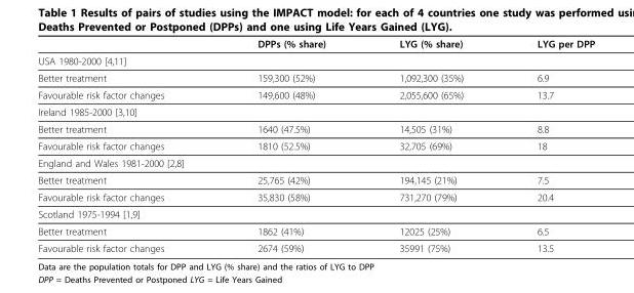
<table><thead><tr><td></td><td>DPPs (% share)</td><td>LYG (% share)</td><td>LYG per DPP</td></tr></thead><tbody><tr><td colspan="4">USA 1980-2000 [4,11]</td></tr><tr><td>Better treatment</td><td>159,300 (52%)</td><td>1,092,300 (35%)</td><td>6.9</td></tr><tr><td>Favourable risk factor changes</td><td>149,600 (48%)</td><td>2,055,600 (65%)</td><td>13.7</td></tr><tr><td colspan="4">Ireland 1985-2000 [3,10]</td></tr><tr><td>Better treatment</td><td>1640 (47.5%)</td><td>14,505 (31%)</td><td>8.8</td></tr><tr><td>Favourable risk factor changes</td><td>1810 (52.5%)</td><td>32,705 (69%)</td><td>18</td></tr><tr><td colspan="4">England and Wales 1981-2000 [2,8]</td></tr><tr><td>Better treatment</td><td>25,765 (42%)</td><td>194,145 (21%)</td><td>7.5</td></tr><tr><td>Favourable risk factor changes</td><td>35,830 (58%)</td><td>731,270 (79%)</td><td>20.4</td></tr><tr><td colspan="4">Scotland 1975-1994 [1,9]</td></tr><tr><td>Better treatment</td><td>1862 (41%)</td><td>12025 (25%)</td><td>6.5</td></tr><tr><td>Favourable risk factor changes</td><td>2674 (59%)</td><td>35991 (75%)</td><td>13.5</td></tr></tbody></table>